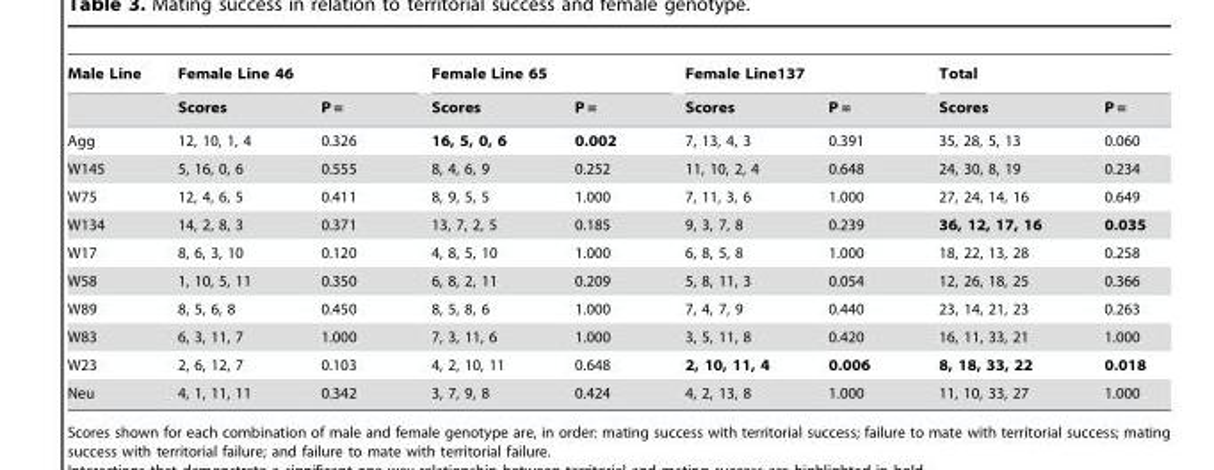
<table><thead><tr><td rowspan="2">Male Line</td><td colspan="2">Female Line 46</td><td colspan="2">Female Line 65</td><td colspan="2">Female Line137</td><td colspan="2">Total</td></tr><tr><td>Scores</td><td>P =</td><td>Scores</td><td>P =</td><td>Scores</td><td>P =</td><td>Scores</td><td>P =</td></tr></thead><tbody><tr><td>Agg</td><td>12, 10, 1, 4</td><td>0.326</td><td>16, 5, 0, 6</td><td>0.002</td><td>7, 13, 4, 3</td><td>0.391</td><td>35, 28, 5, 13</td><td>0.060</td></tr><tr><td>W145</td><td>5, 16, 0, 6</td><td>0.555</td><td>8, 4, 6, 9</td><td>0.252</td><td>11, 10, 2, 4</td><td>0.648</td><td>24, 30, 8, 19</td><td>0.234</td></tr><tr><td>W75</td><td>12, 4, 6, 5</td><td>0.411</td><td>8, 9, 5, 5</td><td>1.000</td><td>7, 11, 3, 6</td><td>1.000</td><td>27, 24, 14, 16</td><td>0.649</td></tr><tr><td>W134</td><td>14, 2, 8, 3</td><td>0.371</td><td>13, 7, 2, 5</td><td>0.185</td><td>9, 3, 7, 8</td><td>0.239</td><td>36, 12, 17, 16</td><td>0.035</td></tr><tr><td>W17</td><td>8, 6, 3, 10</td><td>0.120</td><td>4, 8, 5, 10</td><td>1.000</td><td>6, 8, 5, 8</td><td>1.000</td><td>18, 22, 13, 28</td><td>0.258</td></tr><tr><td>W58</td><td>1, 10, 5, 11</td><td>0.350</td><td>6, 8, 2, 11</td><td>0.209</td><td>5, 8, 11, 3</td><td>0.054</td><td>12, 26, 18, 25</td><td>0.366</td></tr><tr><td>W89</td><td>8, 5, 6, 8</td><td>0.450</td><td>8, 5, 8, 6</td><td>1.000</td><td>7, 4, 7, 9</td><td>0.440</td><td>23, 14, 21, 23</td><td>0.263</td></tr><tr><td>W83</td><td>6, 3, 11, 7</td><td>1.000</td><td>7, 3, 11, 6</td><td>1.000</td><td>3, 5, 11, 8</td><td>0.420</td><td>16, 11, 33, 21</td><td>1.000</td></tr><tr><td>W23</td><td>2, 6, 12, 7</td><td>0.103</td><td>4, 2, 10, 11</td><td>0.648</td><td>2, 10, 11, 4</td><td>0.006</td><td>8, 18, 33, 22</td><td>0.018</td></tr><tr><td>Neu</td><td>4, 1, 11, 11</td><td>0.342</td><td>3, 7, 9, 8</td><td>0.424</td><td>4, 2, 13, 8</td><td>1.000</td><td>11, 10, 33, 27</td><td>1.000</td></tr></tbody></table>